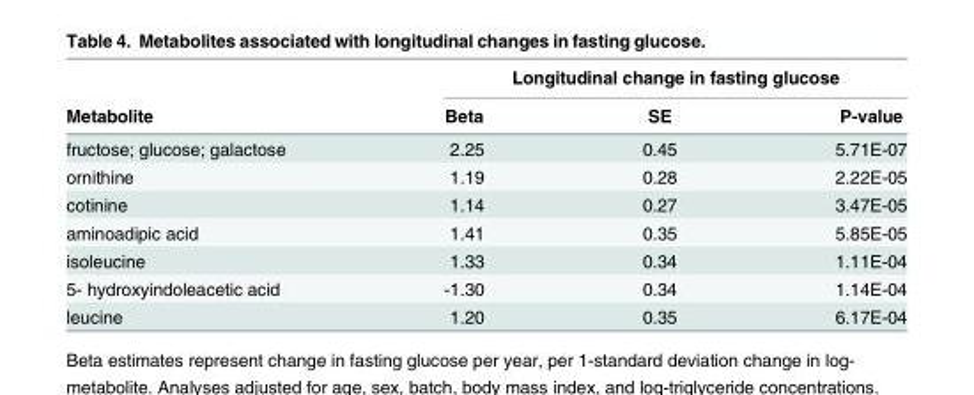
<table><thead><tr><td rowspan="2">Metabolite</td><td colspan="3">Longitudinal change in fasting glucose</td></tr><tr><td>Beta</td><td>SE</td><td>P-value</td></tr></thead><tbody><tr><td>fructose; glucose; galactose</td><td>2.25</td><td>0.45</td><td>5.71E-07</td></tr><tr><td>ornithine</td><td>1.19</td><td>0.28</td><td>2.22E-05</td></tr><tr><td>cotinine</td><td>1.14</td><td>0.27</td><td>3.47E-05</td></tr><tr><td>aminoadipic acid</td><td>1.41</td><td>0.35</td><td>5.85E-05</td></tr><tr><td>isoleucine</td><td>1.33</td><td>0.34</td><td>1.11E-04</td></tr><tr><td>5- hydroxyindoleacetic acid</td><td>-1.30</td><td>0.34</td><td>1.14E-04</td></tr><tr><td>leucine</td><td>1.20</td><td>0.35</td><td>6.17E-04</td></tr></tbody></table>